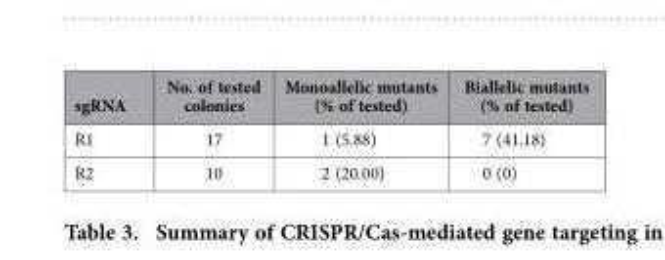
<table><thead><tr><td>sgRNA</td><td>No. of tested colonies</td><td>Monoallelic mutants (% of tested)</td><td>Biallelic mutants (% of tested)</td></tr></thead><tbody><tr><td>R1</td><td>17</td><td>1 (5.88)</td><td>7 (41.18)</td></tr><tr><td>R2</td><td>10</td><td>2 (20.00)</td><td>0 (0)</td></tr></tbody></table>